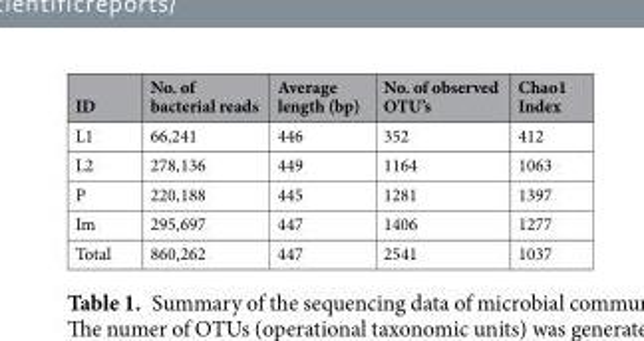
<table><thead><tr><td>ID</td><td>No. of bacterial reads</td><td>Average length (bp)</td><td>No. of observed OTU’s</td><td>Chao1 Index</td></tr></thead><tbody><tr><td>L1</td><td>66,241</td><td>446</td><td>352</td><td>412</td></tr><tr><td>L2</td><td>278,136</td><td>449</td><td>1164</td><td>1063</td></tr><tr><td>P</td><td>220,188</td><td>445</td><td>1281</td><td>1397</td></tr><tr><td>Im</td><td>295,697</td><td>447</td><td>1406</td><td>1277</td></tr><tr><td>Total</td><td>860,262</td><td>447</td><td>2541</td><td>1037</td></tr></tbody></table>